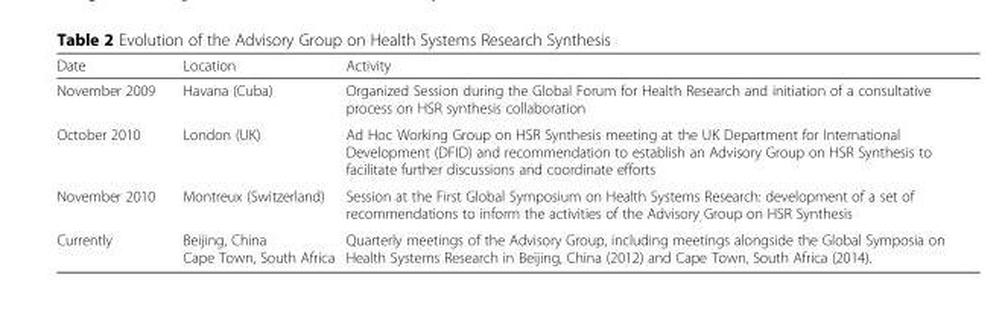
<table><thead><tr><td>Date</td><td>Location</td><td>Activity</td></tr></thead><tbody><tr><td>November 2009</td><td>Havana (Cuba)</td><td>Organized Session during the Global Forum for Health Research and initiation of a consultative process on HSR synthesis collaboration</td></tr><tr><td>October 2010</td><td>London (UK)</td><td>Ad Hoc Working Group on HSR Synthesis meeting at the UK Department for International Development (DFID) and recommendation to establish an Advisory Group on HSR Synthesis to facilitate further discussions and coordinate efforts</td></tr><tr><td>November 2010</td><td>Montreux (Switzerland)</td><td>Session at the First Global Symposium on Health Systems Research: development of a set of recommendations to inform the activities of the Advisory Group on HSR Synthesis</td></tr><tr><td>Currently</td><td>Beijing, China Cape Town, South Africa</td><td>Quarterly meetings of the Advisory Group, including meetings alongside the Global Symposia on Health Systems Research in Beijing, China (2012) and Cape Town, South Africa (2014).</td></tr></tbody></table>